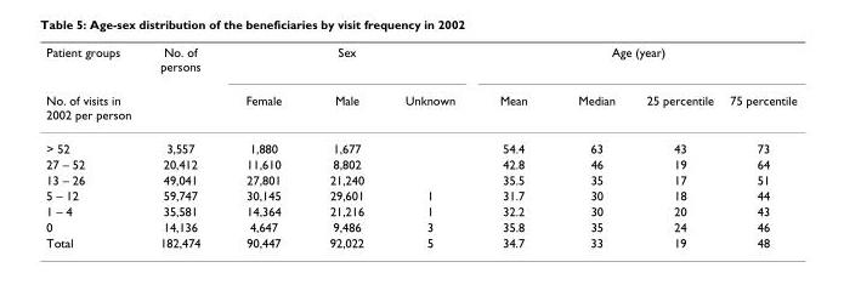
<table><thead><tr><td rowspan="2">Patient groups No. of visits in 2002 per person</td><td rowspan="2">No. of persons</td><td colspan="3">Sex</td><td colspan="4">Age (year)</td></tr><tr><td>Female</td><td>Male</td><td>Unknown</td><td>Mean</td><td>Median</td><td>25 percentile</td><td>75 percentile</td></tr></thead><tbody><tr><td>&gt; 52</td><td>3,557</td><td>1,880</td><td>1,677</td><td></td><td>54.4</td><td>63</td><td>43</td><td>73</td></tr><tr><td>27 – 52</td><td>20,412</td><td>11,610</td><td>8,802</td><td></td><td>42.8</td><td>46</td><td>19</td><td>64</td></tr><tr><td>13 – 26</td><td>49,041</td><td>27,801</td><td>21,240</td><td></td><td>35.5</td><td>35</td><td>17</td><td>51</td></tr><tr><td>5 – 12</td><td>59,747</td><td>30,145</td><td>29,601</td><td>1</td><td>31.7</td><td>30</td><td>18</td><td>44</td></tr><tr><td>1 – 4</td><td>35,581</td><td>14,364</td><td>21,216</td><td>1</td><td>32.2</td><td>30</td><td>20</td><td>43</td></tr><tr><td>0</td><td>14,136</td><td>4,647</td><td>9,486</td><td>3</td><td>35.8</td><td>35</td><td>24</td><td>46</td></tr><tr><td>Total</td><td>182,474</td><td>90,447</td><td>92,022</td><td>5</td><td>34.7</td><td>33</td><td>19</td><td>48</td></tr></tbody></table>